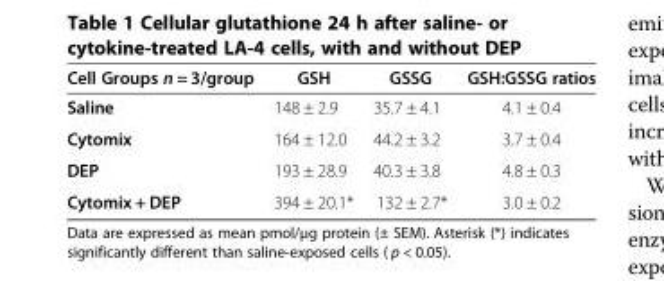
<table><thead><tr><td>Cell Groups n = 3/group</td><td>GSH</td><td>GSSG</td><td>GSH:GSSG ratios</td></tr></thead><tbody><tr><td>Saline</td><td>148 ± 2.9</td><td>35.7 ± 4.1</td><td>4.1 ± 0.4</td></tr><tr><td>Cytomix</td><td>164 ± 12.0</td><td>44.2 ± 3.2</td><td>3.7 ± 0.4</td></tr><tr><td>DEP</td><td>193 ± 28.9</td><td>40.3 ± 3.8</td><td>4.8 ± 0.3</td></tr><tr><td>Cytomix + DEP</td><td>394 ± 20.1*</td><td>132 ± 2.7*</td><td>3.0 ± 0.2</td></tr></tbody></table>